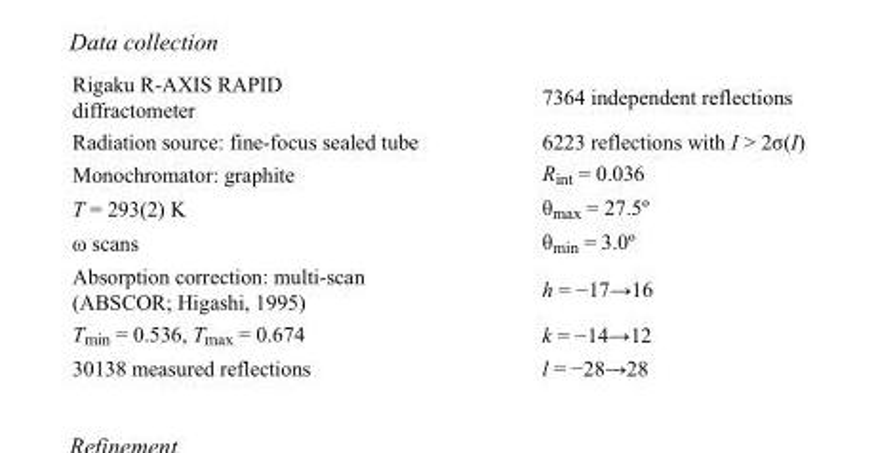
<table><tbody><tr><td>Rigaku R-AXIS RAPID diffractometer</td><td>7364 independent reflections</td></tr><tr><td>Radiation source: fine-focus sealed tube</td><td>6223 reflections with I &gt; 2σ(I)</td></tr><tr><td>Monochromator: graphite</td><td>R<sub>int</sub> = 0.036</td></tr><tr><td>T = 293(2) K</td><td>θ<sub>max</sub> = 27.5º</td></tr><tr><td>ω scans</td><td>θ<sub>min</sub> = 3.0º</td></tr><tr><td>Absorption correction: multi-scan (ABSCOR; Higashi, 1995)</td><td>h = −17→16</td></tr><tr><td>T<sub>min</sub> = 0.536, T<sub>max</sub> = 0.674</td><td>k = −14→12</td></tr><tr><td>30138 measured reflections</td><td>l = −28→28</td></tr></tbody></table>